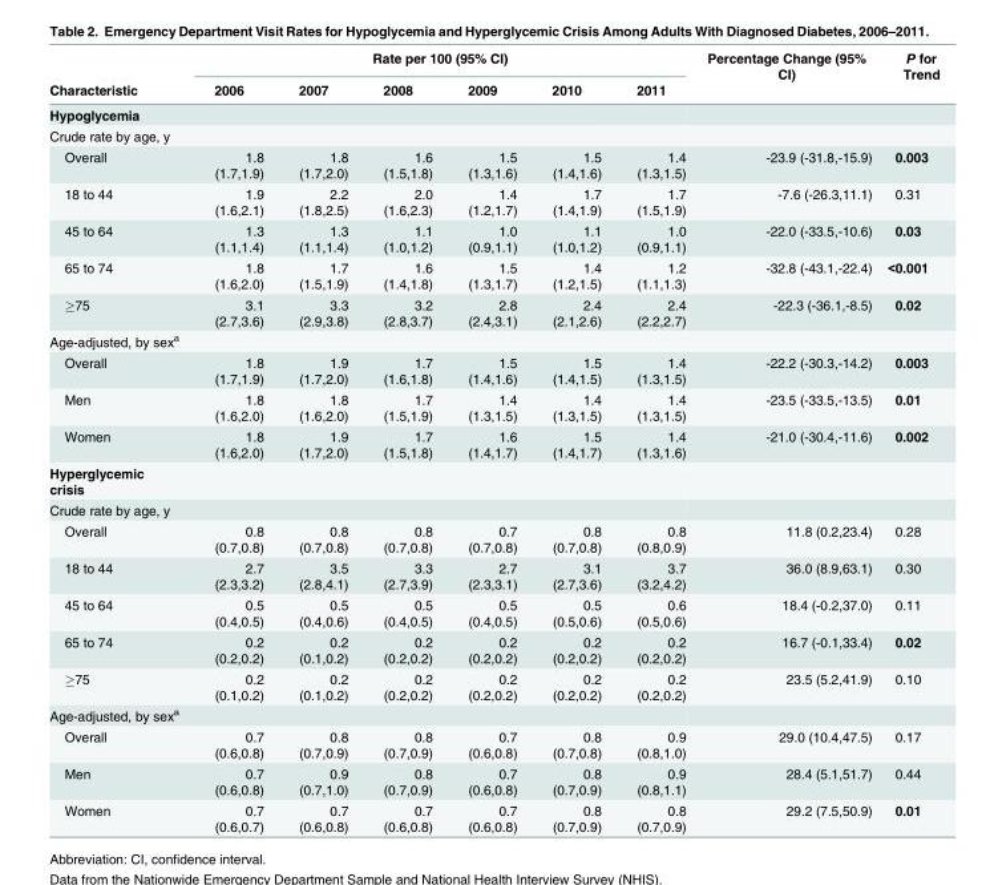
<table><thead><tr><td rowspan="2">Characteristic</td><td colspan="6">Rate per 100 (95% CI)</td><td rowspan="2">Percentage Change (95% CI)</td><td rowspan="2">P for Trend</td></tr><tr><td>2006</td><td>2007</td><td>2008</td><td>2009</td><td>2010</td><td>2011</td></tr></thead><tbody><tr><td colspan="9">Hypoglycemia</td></tr><tr><td colspan="9">Crude rate by age, y</td></tr><tr><td>Overall</td><td>1.8 (1.7,1.9)</td><td>1.8 (1.7,2.0)</td><td>1.6 (1.5,1.8)</td><td>1.5 (1.3,1.6)</td><td>1.5 (1.4,1.6)</td><td>1.4 (1.3,1.5)</td><td>-23.9 (-31.8,-15.9)</td><td>0.003</td></tr><tr><td>18 to 44</td><td>1.9 (1.6,2.1)</td><td>2.2 (1.8,2.5)</td><td>2.0 (1.6,2.3)</td><td>1.4 (1.2,1.7)</td><td>1.7 (1.4,1.9)</td><td>1.7 (1.5,1.9)</td><td>-7.6 (-26.3,11.1)</td><td>0.31</td></tr><tr><td>45 to 64</td><td>1.3 (1.1,1.4)</td><td>1.3 (1.1,1.4)</td><td>1.1 (1.0,1.2)</td><td>1.0 (0.9,1.1)</td><td>1.1 (1.0,1.2)</td><td>1.0 (0.9,1.1)</td><td>-22.0 (-33.5,-10.6)</td><td>0.03</td></tr><tr><td>65 to 74</td><td>1.8 (1.6,2.0)</td><td>1.7 (1.5,1.9)</td><td>1.6 (1.4,1.8)</td><td>1.5 (1.3,1.7)</td><td>1.4 (1.2,1.5)</td><td>1.2 (1.1,1.3)</td><td>-32.8 (-43.1,-22.4)</td><td>&lt;0.001</td></tr><tr><td>≥75</td><td>3.1 (2.7,3.6)</td><td>3.3 (2.9,3.8)</td><td>3.2 (2.8,3.7)</td><td>2.8 (2.4,3.1)</td><td>2.4 (2.1,2.6)</td><td>2.4 (2.2,2.7)</td><td>-22.3 (-36.1,-8.5)</td><td>0.02</td></tr><tr><td colspan="9">Age-adjusted, by sex<sup>a</sup></td></tr><tr><td>Overall</td><td>1.8 (1.7,1.9)</td><td>1.9 (1.7,2.0)</td><td>1.7 (1.6,1.8)</td><td>1.5 (1.4,1.6)</td><td>1.5 (1.4,1.5)</td><td>1.4 (1.3,1.5)</td><td>-22.2 (-30.3,-14.2)</td><td>0.003</td></tr><tr><td>Men</td><td>1.8 (1.6,2.0)</td><td>1.8 (1.6,2.0)</td><td>1.7 (1.5,1.9)</td><td>1.4 (1.3,1.5)</td><td>1.4 (1.3,1.5)</td><td>1.4 (1.3,1.5)</td><td>-23.5 (-33.5,-13.5)</td><td>0.01</td></tr><tr><td>Women</td><td>1.8 (1.6,2.0)</td><td>1.9 (1.7,2.0)</td><td>1.7 (1.5,1.8)</td><td>1.6 (1.4,1.7)</td><td>1.5 (1.4,1.7)</td><td>1.4 (1.3,1.6)</td><td>-21.0 (-30.4,-11.6)</td><td>0.002</td></tr><tr><td colspan="9">Hyperglycemic crisis</td></tr><tr><td colspan="9">Crude rate by age, y</td></tr><tr><td>Overall</td><td>0.8 (0.7,0.8)</td><td>0.8 (0.7,0.8)</td><td>0.8 (0.7,0.8)</td><td>0.7 (0.7,0.8)</td><td>0.8 (0.7,0.8)</td><td>0.8 (0.8,0.9)</td><td>11.8 (0.2,23.4)</td><td>0.28</td></tr><tr><td>18 to 44</td><td>2.7 (2.3,3.2)</td><td>3.5 (2.8,4.1)</td><td>3.3 (2.7,3.9)</td><td>2.7 (2.3,3.1)</td><td>3.1 (2.7,3.6)</td><td>3.7 (3.2,4.2)</td><td>36.0 (8.9,63.1)</td><td>0.30</td></tr><tr><td>45 to 64</td><td>0.5 (0.4,0.5)</td><td>0.5 (0.4,0.6)</td><td>0.5 (0.4,0.5)</td><td>0.5 (0.4,0.5)</td><td>0.5 (0.5,0.6)</td><td>0.6 (0.5,0.6)</td><td>18.4 (-0.2,37.0)</td><td>0.11</td></tr><tr><td>65 to 74</td><td>0.2 (0.2,0.2)</td><td>0.2 (0.1,0.2)</td><td>0.2 (0.2,0.2)</td><td>0.2 (0.2,0.2)</td><td>0.2 (0.2,0.2)</td><td>0.2 (0.2,0.2)</td><td>16.7 (-0.1,33.4)</td><td>0.02</td></tr><tr><td>≥75</td><td>0.2 (0.1,0.2)</td><td>0.2 (0.1,0.2)</td><td>0.2 (0.2,0.2)</td><td>0.2 (0.2,0.2)</td><td>0.2 (0.2,0.2)</td><td>0.2 (0.2,0.2)</td><td>23.5 (5.2,41.9)</td><td>0.10</td></tr><tr><td colspan="9">Age-adjusted, by sex<sup>a</sup></td></tr><tr><td>Overall</td><td>0.7 (0.6,0.8)</td><td>0.8 (0.7,0.9)</td><td>0.8 (0.7,0.9)</td><td>0.7 (0.6,0.8)</td><td>0.8 (0.7,0.8)</td><td>0.9 (0.8,1.0)</td><td>29.0 (10.4,47.5)</td><td>0.17</td></tr><tr><td>Men</td><td>0.7 (0.6,0.8)</td><td>0.9 (0.7,1.0)</td><td>0.8 (0.7,0.9)</td><td>0.7 (0.6,0.8)</td><td>0.8 (0.7,0.9)</td><td>0.9 (0.8,1.1)</td><td>28.4 (5.1,51.7)</td><td>0.44</td></tr><tr><td>Women</td><td>0.7 (0.6,0.7)</td><td>0.7 (0.6,0.8)</td><td>0.7 (0.6,0.8)</td><td>0.7 (0.6,0.8)</td><td>0.8 (0.7,0.9)</td><td>0.8 (0.7,0.9)</td><td>29.2 (7.5,50.9)</td><td>0.01</td></tr></tbody></table>